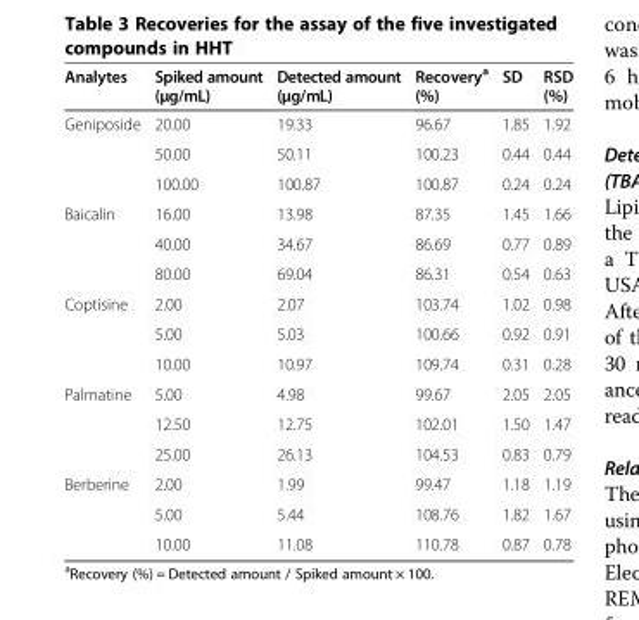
<table><thead><tr><td>Analytes</td><td>Spiked amount (μg/mL)</td><td>Detected amount (μg/mL)</td><td>Recovery<sup>a</sup> (%)</td><td>SD</td><td>RSD (%)</td></tr></thead><tbody><tr><td rowspan="3">Geniposide</td><td>20.00</td><td>19.33</td><td>96.67</td><td>1.85</td><td>1.92</td></tr><tr><td>50.00</td><td>50.11</td><td>100.23</td><td>0.44</td><td>0.44</td></tr><tr><td>100.00</td><td>100.87</td><td>100.87</td><td>0.24</td><td>0.24</td></tr><tr><td rowspan="3">Baicalin</td><td>16.00</td><td>13.98</td><td>87.35</td><td>1.45</td><td>1.66</td></tr><tr><td>40.00</td><td>34.67</td><td>86.69</td><td>0.77</td><td>0.89</td></tr><tr><td>80.00</td><td>69.04</td><td>86.31</td><td>0.54</td><td>0.63</td></tr><tr><td rowspan="3">Coptisine</td><td>2.00</td><td>2.07</td><td>103.74</td><td>1.02</td><td>0.98</td></tr><tr><td>5.00</td><td>5.03</td><td>100.66</td><td>0.92</td><td>0.91</td></tr><tr><td>10.00</td><td>10.97</td><td>109.74</td><td>0.31</td><td>0.28</td></tr><tr><td rowspan="3">Palmatine</td><td>5.00</td><td>4.98</td><td>99.67</td><td>2.05</td><td>2.05</td></tr><tr><td>12.50</td><td>12.75</td><td>102.01</td><td>1.50</td><td>1.47</td></tr><tr><td>25.00</td><td>26.13</td><td>104.53</td><td>0.83</td><td>0.79</td></tr><tr><td rowspan="3">Berberine</td><td>2.00</td><td>1.99</td><td>99.47</td><td>1.18</td><td>1.19</td></tr><tr><td>5.00</td><td>5.44</td><td>108.76</td><td>1.82</td><td>1.67</td></tr><tr><td>10.00</td><td>11.08</td><td>110.78</td><td>0.87</td><td>0.78</td></tr></tbody></table>